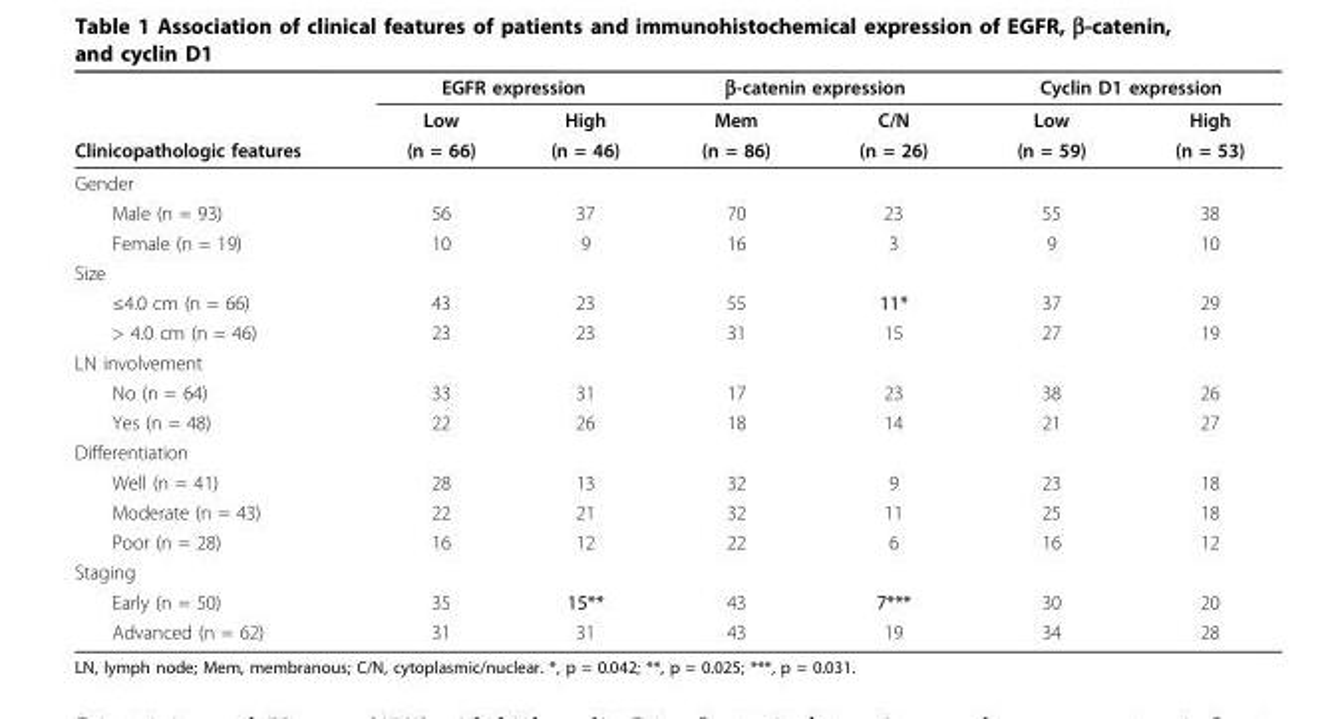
<table><thead><tr><td rowspan="3">Clinicopathologic features</td><td colspan="2">EGFR expression</td><td colspan="2">β-catenin expression</td><td colspan="2">Cyclin D1 expression</td></tr><tr><td rowspan="2">Low (n = 66)</td><td rowspan="2">High (n = 46)</td><td rowspan="2">Mem (n = 86)</td><td rowspan="2">C/N (n = 26)</td><td rowspan="2">Low (n = 59)</td><td rowspan="2">High (n = 53)</td></tr><tr></tr></thead><tbody><tr><td colspan="7">Gender</td></tr><tr><td>Male (n = 93)</td><td>56</td><td>37</td><td>70</td><td>23</td><td>55</td><td>38</td></tr><tr><td>Female (n = 19)</td><td>10</td><td>9</td><td>16</td><td>3</td><td>9</td><td>10</td></tr><tr><td colspan="7">Size</td></tr><tr><td>≤4.0 cm (n = 66)</td><td>43</td><td>23</td><td>55</td><td>11*</td><td>37</td><td>29</td></tr><tr><td>&gt; 4.0 cm (n = 46)</td><td>23</td><td>23</td><td>31</td><td>15</td><td>27</td><td>19</td></tr><tr><td colspan="7">LN involvement</td></tr><tr><td>No (n = 64)</td><td>33</td><td>31</td><td>17</td><td>23</td><td>38</td><td>26</td></tr><tr><td>Yes (n = 48)</td><td>22</td><td>26</td><td>18</td><td>14</td><td>21</td><td>27</td></tr><tr><td colspan="7">Differentiation</td></tr><tr><td>Well (n = 41)</td><td>28</td><td>13</td><td>32</td><td>9</td><td>23</td><td>18</td></tr><tr><td>Moderate (n = 43)</td><td>22</td><td>21</td><td>32</td><td>11</td><td>25</td><td>18</td></tr><tr><td>Poor (n = 28)</td><td>16</td><td>12</td><td>22</td><td>6</td><td>16</td><td>12</td></tr><tr><td colspan="7">Staging</td></tr><tr><td>Early (n = 50)</td><td>35</td><td>15**</td><td>43</td><td>7***</td><td>30</td><td>20</td></tr><tr><td>Advanced (n = 62)</td><td>31</td><td>31</td><td>43</td><td>19</td><td>34</td><td>28</td></tr></tbody></table>